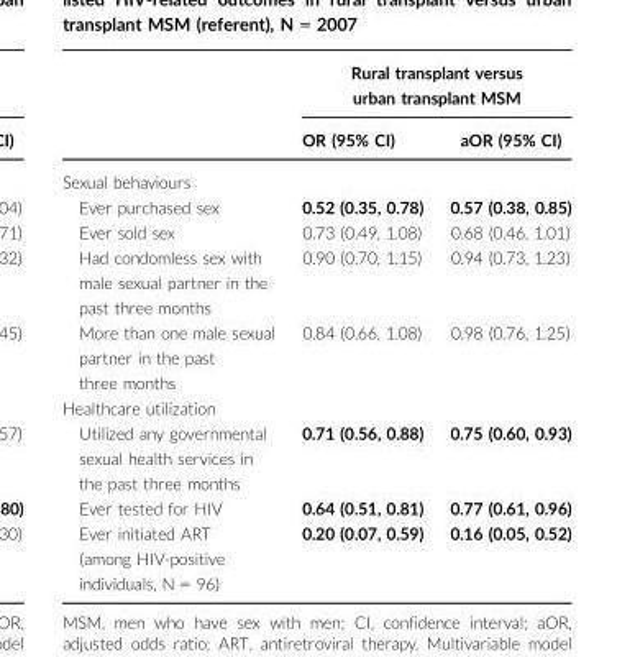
<table><thead><tr><td rowspan="2"></td><td colspan="2">Rural transplant versus urban transplant MSM</td></tr><tr><td>OR (95% CI)</td><td>aOR (95% CI)</td></tr></thead><tbody><tr><td colspan="3">Sexual behaviours</td></tr><tr><td>Ever purchased sex</td><td>0.52 (0.35, 0.78)</td><td>0.57 (0.38, 0.85)</td></tr><tr><td>Ever sold sex</td><td>0.73 (0.49, 1.08)</td><td>0.68 (0.46, 1.01)</td></tr><tr><td>Had condomless sex with male sexual partner in the past three months</td><td>0.90 (0.70, 1.15)</td><td>0.94 (0.73, 1.23)</td></tr><tr><td>More than one male sexual partner in the past three months</td><td>0.84 (0.66, 1.08)</td><td>0.98 (0.76, 1.25)</td></tr><tr><td colspan="3">Healthcare utilization</td></tr><tr><td>Utilized any governmental sexual health services in the past three months</td><td>0.71 (0.56, 0.88)</td><td>0.75 (0.60, 0.93)</td></tr><tr><td>Ever tested for HIV</td><td>0.64 (0.51, 0.81)</td><td>0.77 (0.61, 0.96)</td></tr><tr><td>Ever initiated ART (among HIV-positive individuals, N = 96)</td><td>0.20 (0.07, 0.59)</td><td>0.16 (0.05, 0.52)</td></tr></tbody></table>